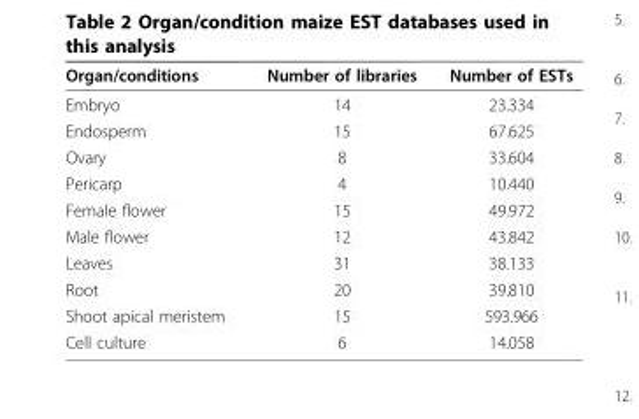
<table><thead><tr><td>Organ/conditions</td><td>Number of libraries</td><td>Number of ESTs</td></tr></thead><tbody><tr><td>Embryo</td><td>14</td><td>23.334</td></tr><tr><td>Endosperm</td><td>15</td><td>67.625</td></tr><tr><td>Ovary</td><td>8</td><td>33.604</td></tr><tr><td>Pericarp</td><td>4</td><td>10.440</td></tr><tr><td>Female flower</td><td>15</td><td>49.972</td></tr><tr><td>Male flower</td><td>12</td><td>43.842</td></tr><tr><td>Leaves</td><td>31</td><td>38.133</td></tr><tr><td>Root</td><td>20</td><td>39.810</td></tr><tr><td>Shoot apical meristem</td><td>15</td><td>593.966</td></tr><tr><td>Cell culture</td><td>6</td><td>14.058</td></tr></tbody></table>